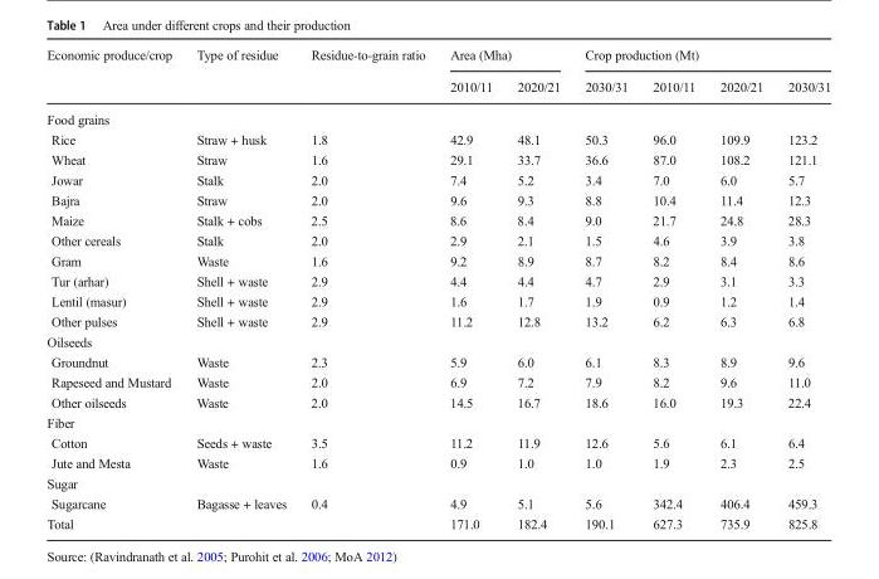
<table><thead><tr><td rowspan="2">Economic produce/crop</td><td rowspan="2">Type of residue</td><td rowspan="2">Residue-to-grain ratio</td><td colspan="2">Area (Mha)</td><td colspan="4">Crop production (Mt)</td></tr><tr><td>2010/11</td><td>2020/21</td><td>2030/31</td><td>2010/11</td><td>2020/21</td><td>2030/31</td></tr></thead><tbody><tr><td colspan="9">Food grains</td></tr><tr><td>Rice</td><td>Straw + husk</td><td>1.8</td><td>42.9</td><td>48.1</td><td>50.3</td><td>96.0</td><td>109.9</td><td>123.2</td></tr><tr><td>Wheat</td><td>Straw</td><td>1.6</td><td>29.1</td><td>33.7</td><td>36.6</td><td>87.0</td><td>108.2</td><td>121.1</td></tr><tr><td>Jowar</td><td>Stalk</td><td>2.0</td><td>7.4</td><td>5.2</td><td>3.4</td><td>7.0</td><td>6.0</td><td>5.7</td></tr><tr><td>Bajra</td><td>Straw</td><td>2.0</td><td>9.6</td><td>9.3</td><td>8.8</td><td>10.4</td><td>11.4</td><td>12.3</td></tr><tr><td>Maize</td><td>Stalk + cobs</td><td>2.5</td><td>8.6</td><td>8.4</td><td>9.0</td><td>21.7</td><td>24.8</td><td>28.3</td></tr><tr><td>Other cereals</td><td>Stalk</td><td>2.0</td><td>2.9</td><td>2.1</td><td>1.5</td><td>4.6</td><td>3.9</td><td>3.8</td></tr><tr><td>Gram</td><td>Waste</td><td>1.6</td><td>9.2</td><td>8.9</td><td>8.7</td><td>8.2</td><td>8.4</td><td>8.6</td></tr><tr><td>Tur (arhar)</td><td>Shell + waste</td><td>2.9</td><td>4.4</td><td>4.4</td><td>4.7</td><td>2.9</td><td>3.1</td><td>3.3</td></tr><tr><td>Lentil (masur)</td><td>Shell + waste</td><td>2.9</td><td>1.6</td><td>1.7</td><td>1.9</td><td>0.9</td><td>1.2</td><td>1.4</td></tr><tr><td>Other pulses</td><td>Shell + waste</td><td>2.9</td><td>11.2</td><td>12.8</td><td>13.2</td><td>6.2</td><td>6.3</td><td>6.8</td></tr><tr><td colspan="9">Oilseeds</td></tr><tr><td>Groundnut</td><td>Waste</td><td>2.3</td><td>5.9</td><td>6.0</td><td>6.1</td><td>8.3</td><td>8.9</td><td>9.6</td></tr><tr><td>Rapeseed and Mustard</td><td>Waste</td><td>2.0</td><td>6.9</td><td>7.2</td><td>7.9</td><td>8.2</td><td>9.6</td><td>11.0</td></tr><tr><td>Other oilseeds</td><td>Waste</td><td>2.0</td><td>14.5</td><td>16.7</td><td>18.6</td><td>16.0</td><td>19.3</td><td>22.4</td></tr><tr><td colspan="9">Fiber</td></tr><tr><td>Cotton</td><td>Seeds + waste</td><td>3.5</td><td>11.2</td><td>11.9</td><td>12.6</td><td>5.6</td><td>6.1</td><td>6.4</td></tr><tr><td>Jute and Mesta</td><td>Waste</td><td>1.6</td><td>0.9</td><td>1.0</td><td>1.0</td><td>1.9</td><td>2.3</td><td>2.5</td></tr><tr><td colspan="9">Sugar</td></tr><tr><td>Sugarcane</td><td>Bagasse + leaves</td><td>0.4</td><td>4.9</td><td>5.1</td><td>5.6</td><td>342.4</td><td>406.4</td><td>459.3</td></tr><tr><td colspan="3">Total</td><td>171.0</td><td>182.4</td><td>190.1</td><td>627.3</td><td>735.9</td><td>825.8</td></tr></tbody></table>